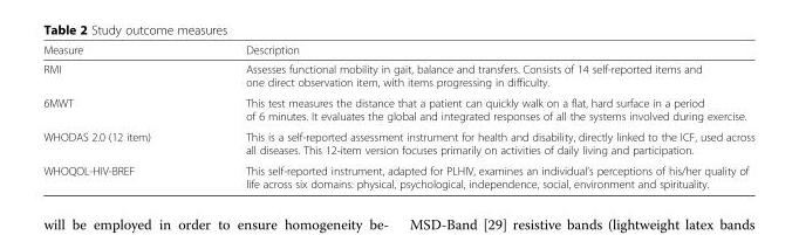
<table><thead><tr><td>Measure</td><td>Description</td></tr></thead><tbody><tr><td>RMI</td><td>Assesses functional mobility in gait, balance and transfers. Consists of 14 self-reported items and one direct observation item, with items progressing in difficulty.</td></tr><tr><td>6MWT</td><td>This test measures the distance that a patient can quickly walk on a flat, hard surface in a period of 6 minutes. It evaluates the global and integrated responses of all the systems involved during exercise.</td></tr><tr><td>WHODAS 2.0 (12 item)</td><td>This is a self-reported assessment instrument for health and disability, directly linked to the ICF, used across all diseases. This 12-item version focuses primarily on activities of daily living and participation.</td></tr><tr><td>WHOQOL-HIV-BREF</td><td>This self-reported instrument, adapted for PLHIV, examines an individual’s perceptions of his/her quality of life across six domains: physical, psychological, independence, social, environment and spirituality.</td></tr></tbody></table>